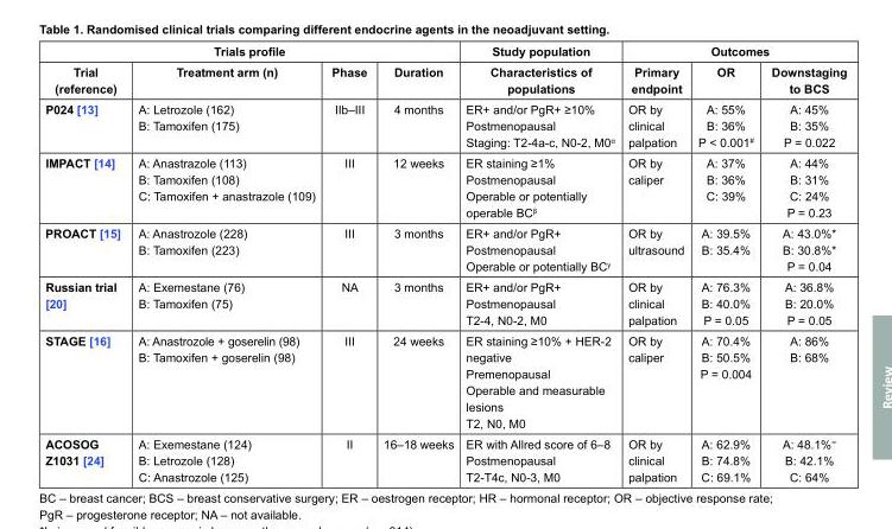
<table><thead><tr><td colspan="4">Trials profile</td><td rowspan="2">Study population Characteristics of populations</td><td colspan="3">Outcomes</td></tr><tr><td>Trial (reference)</td><td>Treatment arm (n)</td><td>Phase</td><td>Duration</td><td>Primary endpoint</td><td>OR</td><td>Downstaging to BCS</td></tr></thead><tbody><tr><td>P024 [13]</td><td>A: Letrozole (162) B: Tamoxifen (175)</td><td>IIb–III</td><td>4 months</td><td>ER+ and/or PgR+ ≥10% Postmenopausal Staging: T2-4a-c, N0-2, M0<sup>α</sup></td><td>OR by clinical palpation</td><td>A: 55% B: 36% P &lt; 0.001<sup>#</sup></td><td>A: 45% B: 35% P = 0.022</td></tr><tr><td>IMPACT [14]</td><td>A: Anastrazole (113) B: Tamoxifen (108) C: Tamoxifen + anastrazole (109)</td><td>III</td><td>12 weeks</td><td>ER staining ≥1% Postmenopausal Operable or potentially operable BC<sup>β</sup></td><td>OR by caliper</td><td>A: 37% B: 36% C: 39%</td><td>A: 44% B: 31% C: 24% P = 0.23</td></tr><tr><td>PROACT [15]</td><td>A: Anastrozole (228) B: Tamoxifen (223)</td><td>III</td><td>3 months</td><td>ER+ and/or PgR+ Postmenopausal Operable or potentially BC<sup>γ</sup></td><td>OR by ultrasound</td><td>A: 39.5% B: 35.4%</td><td>A: 43.0%* B: 30.8%* P = 0.04</td></tr><tr><td>Russian trial [20]</td><td>A: Exemestane (76) B: Tamoxifen (75)</td><td>NA</td><td>3 months</td><td>ER+ and/or PgR+ Postmenopausal T2-4, N0-2, M0</td><td>OR by clinical palpation</td><td>A: 76.3% B: 40.0% P = 0.05</td><td>A: 36.8% B: 20.0% P = 0.05</td></tr><tr><td>STAGE [16]</td><td>A: Anastrozole + goserelin (98) B: Tamoxifen + goserelin (98)</td><td>III</td><td>24 weeks</td><td>ER staining ≥10% + HER-2 negative Premenopausal Operable and measurable lesions T2, N0, M0</td><td>OR by caliper</td><td>A: 70.4% B: 50.5% P = 0.004</td><td>A: 86% B: 68%</td></tr><tr><td>ACOSOG Z1031 [24]</td><td>A: Exemestane (124) B: Letrozole (128) C: Anastrozole (125)</td><td>II</td><td>16–18 weeks</td><td>ER with Allred score of 6–8 Postmenopausal T2-T4c, N0-3, M0</td><td>OR by clinical palpation</td><td>A: 62.9% B: 74.8% C: 69.1%</td><td>A: 48.1%<sup>∞</sup> B: 42.1% C: 64%</td></tr></tbody></table>